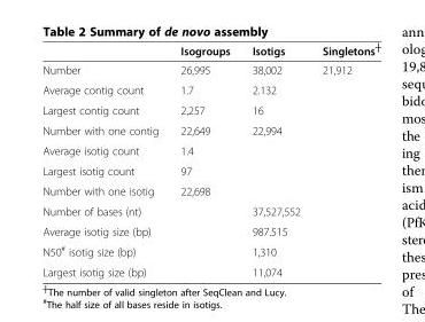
<table><thead><tr><td></td><td>Isogroups</td><td>Isotigs</td><td>Singletons<sup>┼</sup></td></tr></thead><tbody><tr><td>Number</td><td>26,995</td><td>38,002</td><td>21,912</td></tr><tr><td>Average contig count</td><td>1.7</td><td>2.132</td><td></td></tr><tr><td>Largest contig count</td><td>2,257</td><td>16</td><td></td></tr><tr><td>Number with one contig</td><td>22,649</td><td>22,994</td><td></td></tr><tr><td>Average isotig count</td><td>1.4</td><td></td><td></td></tr><tr><td>Largest isotig count</td><td>97</td><td></td><td></td></tr><tr><td>Number with one isotig</td><td>22,698</td><td></td><td></td></tr><tr><td>Number of bases (nt)</td><td></td><td>37,527,552</td><td></td></tr><tr><td>Average isotig size (bp)</td><td></td><td>987.515</td><td></td></tr><tr><td>N50<sup>#</sup> isotig size (bp)</td><td></td><td>1,310</td><td></td></tr><tr><td>Largest isotig size (bp)</td><td></td><td>11,074</td><td></td></tr></tbody></table>